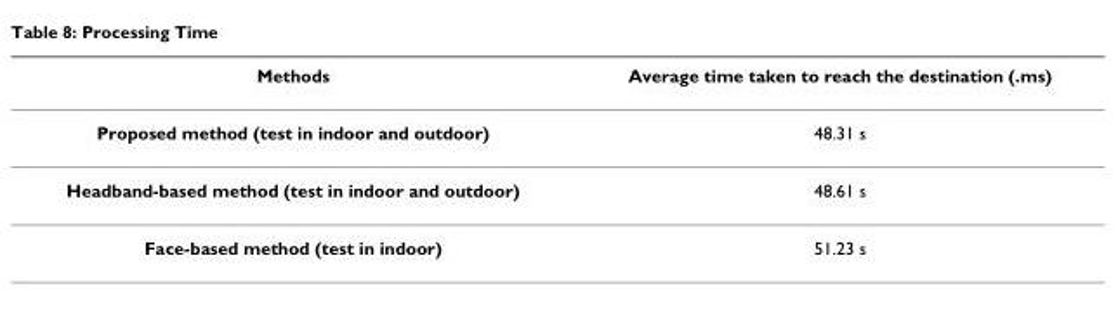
<table><thead><tr><td>Methods</td><td>Average time taken to reach the destination (.ms)</td></tr></thead><tbody><tr><td>Proposed method (test in indoor and outdoor)</td><td>48.31 s</td></tr><tr><td>Headband-based method (test in indoor and outdoor)</td><td>48.61 s</td></tr><tr><td>Face-based method (test in indoor)</td><td>51.23 s</td></tr></tbody></table>